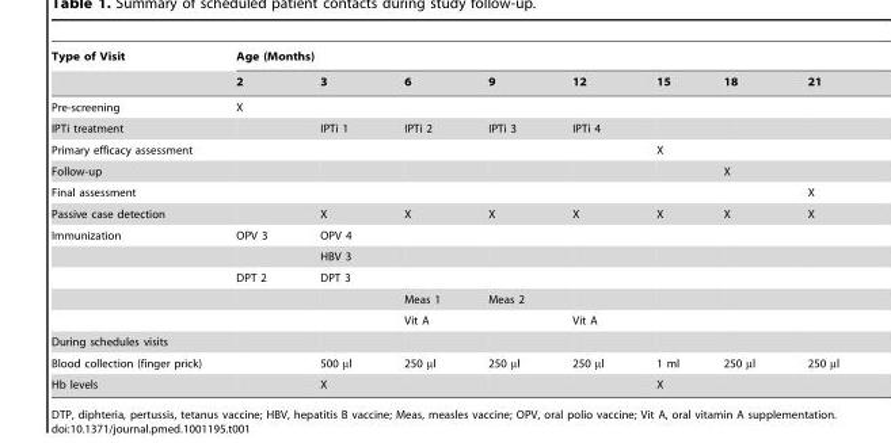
<table><thead><tr><td rowspan="2">Type of Visit</td><td colspan="8">Age (Months)</td></tr><tr><td>2</td><td>3</td><td>6</td><td>9</td><td>12</td><td>15</td><td>18</td><td>21</td></tr></thead><tbody><tr><td>Pre-screening</td><td>X</td><td></td><td></td><td></td><td></td><td></td><td></td><td></td></tr><tr><td>IPTi treatment</td><td></td><td>IPTi 1</td><td>IPTi 2</td><td>IPTi 3</td><td>IPTi 4</td><td></td><td></td><td></td></tr><tr><td>Primary efficacy assessment</td><td></td><td></td><td></td><td></td><td></td><td>X</td><td></td><td></td></tr><tr><td>Follow-up</td><td></td><td></td><td></td><td></td><td></td><td></td><td>X</td><td></td></tr><tr><td>Final assessment</td><td></td><td></td><td></td><td></td><td></td><td></td><td></td><td>X</td></tr><tr><td>Passive case detection</td><td></td><td>X</td><td>X</td><td>X</td><td>X</td><td>X</td><td>X</td><td>X</td></tr><tr><td rowspan="5">Immunization</td><td>OPV 3</td><td>OPV 4</td><td></td><td></td><td></td><td></td><td></td><td></td></tr><tr><td></td><td>HBV 3</td><td></td><td></td><td></td><td></td><td></td><td></td></tr><tr><td>DPT 2</td><td>DPT 3</td><td></td><td></td><td></td><td></td><td></td><td></td></tr><tr><td></td><td></td><td>Meas 1</td><td>Meas 2</td><td></td><td></td><td></td><td></td></tr><tr><td></td><td></td><td>Vit A</td><td></td><td>Vit A</td><td></td><td></td><td></td></tr><tr><td colspan="9">During schedules visits</td></tr><tr><td>Blood collection (finger prick)</td><td></td><td>500 µl</td><td>250 µl</td><td>250 µl</td><td>250 µl</td><td>1 ml</td><td>250 µl</td><td>250 µl</td></tr><tr><td>Hb levels</td><td></td><td>X</td><td></td><td></td><td></td><td>X</td><td></td><td></td></tr></tbody></table>